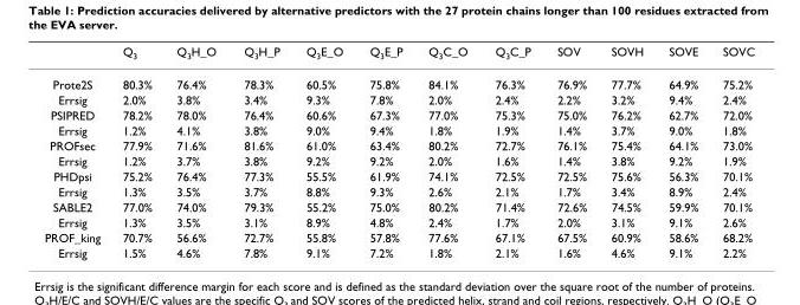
<table><thead><tr><td></td><td>Q<sub>3</sub></td><td>Q<sub>3</sub>H_O</td><td>Q<sub>3</sub>H_P</td><td>Q<sub>3</sub>E_O</td><td>Q<sub>3</sub>E_P</td><td>Q<sub>3</sub>C_O</td><td>Q<sub>3</sub>C_P</td><td>SOV</td><td>SOVH</td><td>SOVE</td><td>SOVC</td></tr></thead><tbody><tr><td>Prote2S</td><td>80.3%</td><td>76.4%</td><td>78.3%</td><td>60.5%</td><td>75.8%</td><td>84.1%</td><td>76.3%</td><td>76.9%</td><td>77.7%</td><td>64.9%</td><td>75.2%</td></tr><tr><td>Errsig</td><td>2.0%</td><td>3.8%</td><td>3.4%</td><td>9.3%</td><td>7.8%</td><td>2.0%</td><td>2.4%</td><td>2.2%</td><td>3.2%</td><td>9.4%</td><td>2.4%</td></tr><tr><td>PSIPRED</td><td>78.2%</td><td>78.0%</td><td>76.4%</td><td>60.6%</td><td>67.3%</td><td>77.0%</td><td>75.3%</td><td>75.0%</td><td>76.2%</td><td>62.7%</td><td>72.0%</td></tr><tr><td>Errsig</td><td>1.2%</td><td>4.1%</td><td>3.8%</td><td>9.0%</td><td>9.4%</td><td>1.8%</td><td>1.9%</td><td>1.4%</td><td>3.7%</td><td>9.0%</td><td>1.8%</td></tr><tr><td>PROFsec</td><td>77.9%</td><td>71.6%</td><td>81.6%</td><td>61.0%</td><td>63.4%</td><td>80.2%</td><td>72.7%</td><td>76.1%</td><td>75.4%</td><td>64.1%</td><td>73.0%</td></tr><tr><td>Errsig</td><td>1.2%</td><td>3.7%</td><td>3.8%</td><td>9.2%</td><td>9.2%</td><td>2.0%</td><td>1.6%</td><td>1.4%</td><td>3.8%</td><td>9.2%</td><td>1.9%</td></tr><tr><td>PHDpsi</td><td>75.2%</td><td>76.4%</td><td>77.3%</td><td>55.5%</td><td>61.9%</td><td>74.1%</td><td>72.5%</td><td>72.5%</td><td>75.6%</td><td>56.3%</td><td>70.1%</td></tr><tr><td>Errsig</td><td>1.3%</td><td>3.5%</td><td>3.7%</td><td>8.8%</td><td>9.3%</td><td>2.6%</td><td>2.1%</td><td>1.7%</td><td>3.4%</td><td>8.9%</td><td>2.4%</td></tr><tr><td>SABLE2</td><td>77.0%</td><td>74.0%</td><td>79.3%</td><td>55.2%</td><td>75.0%</td><td>80.2%</td><td>71.4%</td><td>72.6%</td><td>74.5%</td><td>59.9%</td><td>70.1%</td></tr><tr><td>Errsig</td><td>1.3%</td><td>3.5%</td><td>3.1%</td><td>8.9%</td><td>4.8%</td><td>2.4%</td><td>1.7%</td><td>2.0%</td><td>3.1%</td><td>9.1%</td><td>2.6%</td></tr><tr><td>PROF_king</td><td>70.7%</td><td>56.6%</td><td>72.7%</td><td>55.8%</td><td>57.8%</td><td>77.6%</td><td>67.1%</td><td>67.5%</td><td>60.9%</td><td>58.6%</td><td>68.2%</td></tr><tr><td>Errsig</td><td>1.5%</td><td>4.6%</td><td>7.8%</td><td>9.1%</td><td>7.2%</td><td>1.8%</td><td>2.1%</td><td>1.6%</td><td>4.6%</td><td>9.1%</td><td>2.2%</td></tr></tbody></table>